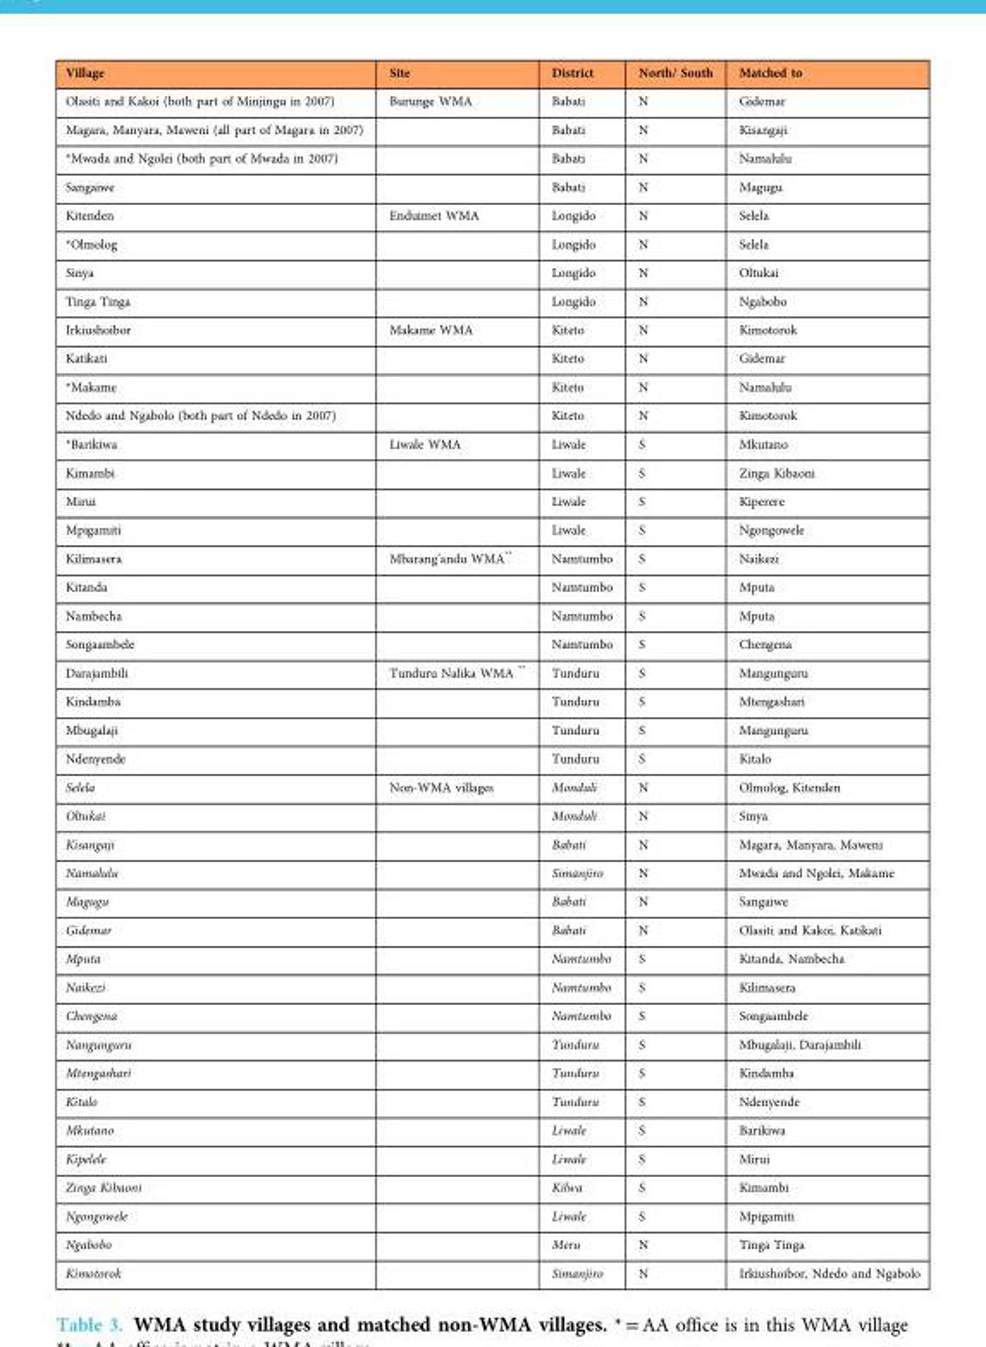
<table><thead><tr><td>Village</td><td>Site</td><td>District</td><td>North/ South</td><td>Matched to</td></tr></thead><tbody><tr><td>Olasiti and Kakoi (both part of Minjingu in 2007)</td><td>Burunge WMA</td><td>Babati</td><td>N</td><td>Gidemar</td></tr><tr><td>Magara, Manyara, Maweni (all part of Magara in 2007)</td><td></td><td>Babati</td><td>N</td><td>Kisangaji</td></tr><tr><td>*Mwada and Ngolei (both part of Mwada in 2007)</td><td></td><td>Babati</td><td>N</td><td>Namalulu</td></tr><tr><td>Sangaiwe</td><td></td><td>Babati</td><td>N</td><td>Magugu</td></tr><tr><td>Kitenden</td><td>Enduimet WMA</td><td>Longido</td><td>N</td><td>Selela</td></tr><tr><td>*Olmolog</td><td></td><td>Longido</td><td>N</td><td>Selela</td></tr><tr><td>Sinya</td><td></td><td>Longido</td><td>N</td><td>Oltukai</td></tr><tr><td>Tinga Tinga</td><td></td><td>Longido</td><td>N</td><td>Ngabobo</td></tr><tr><td>Irkiushoibor</td><td>Makame WMA</td><td>Kiteto</td><td>N</td><td>Kimotorok</td></tr><tr><td>Katikati</td><td></td><td>Kiteto</td><td>N</td><td>Gidemar</td></tr><tr><td>*Makame</td><td></td><td>Kiteto</td><td>N</td><td>Namalulu</td></tr><tr><td>Ndedo and Ngabolo (both part of Ndedo in 2007)</td><td></td><td>Kiteto</td><td>N</td><td>Kimotorok</td></tr><tr><td>*Barikiwa</td><td>Liwale WMA</td><td>Liwale</td><td>S</td><td>Mkutano</td></tr><tr><td>Kimambi</td><td></td><td>Liwale</td><td>S</td><td>Zinga Kibaoni</td></tr><tr><td>Mirui</td><td></td><td>Liwale</td><td>S</td><td>Kiperere</td></tr><tr><td>Mpigamiti</td><td></td><td>Liwale</td><td>S</td><td>Ngongowele</td></tr><tr><td>Kilimasera</td><td>Mbarang’andu WMA**</td><td>Namtumbo</td><td>S</td><td>Naikezi</td></tr><tr><td>Kitanda</td><td></td><td>Namtumbo</td><td>S</td><td>Mputa</td></tr><tr><td>Nambecha</td><td></td><td>Namtumbo</td><td>S</td><td>Mputa</td></tr><tr><td>Songaambele</td><td></td><td>Namtumbo</td><td>S</td><td>Chengena</td></tr><tr><td>Darajambili</td><td>Tunduru Nalika WMA **</td><td>Tunduru</td><td>S</td><td>Mangunguru</td></tr><tr><td>Kindamba</td><td></td><td>Tunduru</td><td>S</td><td>Mtengashari</td></tr><tr><td>Mbugalaji</td><td></td><td>Tunduru</td><td>S</td><td>Mangunguru</td></tr><tr><td>Ndenyende</td><td></td><td>Tunduru</td><td>S</td><td>Kitalo</td></tr><tr><td>Selela</td><td>Non-WMA villages</td><td>Monduli</td><td>N</td><td>Olmolog, Kitenden</td></tr><tr><td>Oltukai</td><td></td><td>Monduli</td><td>N</td><td>Sinya</td></tr><tr><td>Kisangaji</td><td></td><td>Babati</td><td>N</td><td>Magara, Manyara, Maweni</td></tr><tr><td>Namalulu</td><td></td><td>Simanjiro</td><td>N</td><td>Mwada and Ngolei, Makame</td></tr><tr><td>Magugu</td><td></td><td>Babati</td><td>N</td><td>Sangaiwe</td></tr><tr><td>Gidemar</td><td></td><td>Babati</td><td>N</td><td>Olasiti and Kakoi, Katikati</td></tr><tr><td>Mputa</td><td></td><td>Namtumbo</td><td>S</td><td>Kitanda, Nambecha</td></tr><tr><td>Naikezi</td><td></td><td>Namtumbo</td><td>S</td><td>Kilimasera</td></tr><tr><td>Chengena</td><td></td><td>Namtumbo</td><td>S</td><td>Songaambele</td></tr><tr><td>Nangunguru</td><td></td><td>Tunduru</td><td>S</td><td>Mbugalaji, Darajambili</td></tr><tr><td>Mtengashari</td><td></td><td>Tunduru</td><td>S</td><td>Kindamba</td></tr><tr><td>Kitalo</td><td></td><td>Tunduru</td><td>S</td><td>Ndenyende</td></tr><tr><td>Mkutano</td><td></td><td>Liwale</td><td>S</td><td>Barikiwa</td></tr><tr><td>Kipelele</td><td></td><td>Liwale</td><td>S</td><td>Mirui</td></tr><tr><td>Zinga Kibaoni</td><td></td><td>Kilwa</td><td>S</td><td>Kimambi</td></tr><tr><td>Ngongowele</td><td></td><td>Liwale</td><td>S</td><td>Mpigamiti</td></tr><tr><td>Ngabobo</td><td></td><td>Meru</td><td>N</td><td>Tinga Tinga</td></tr><tr><td>Kimotorok</td><td></td><td>Simanjiro</td><td>N</td><td>Irkiushoibor, Ndedo and Ngabolo</td></tr></tbody></table>